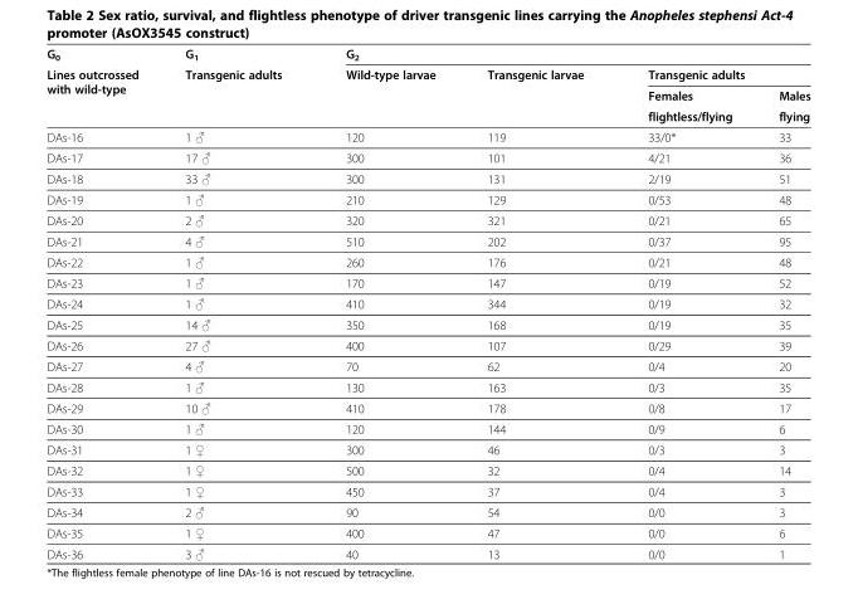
<table><thead><tr><td rowspan="4">G<sub>0</sub> Lines outcrossed with wild-type</td><td rowspan="4">G<sub>1</sub> Transgenic adults</td><td colspan="4">G<sub>2</sub></td></tr><tr><td rowspan="3">Wild-type larvae</td><td rowspan="3">Transgenic larvae</td><td colspan="2">Transgenic adults</td></tr><tr><td rowspan="2">Females flightless/flying</td><td rowspan="2">Males flying</td></tr><tr></tr></thead><tbody><tr><td>DAs-16</td><td>1 ♂</td><td>120</td><td>119</td><td>33/0*</td><td>33</td></tr><tr><td>DAs-17</td><td>17 ♂</td><td>300</td><td>101</td><td>4/21</td><td>36</td></tr><tr><td>DAs-18</td><td>33 ♂</td><td>300</td><td>131</td><td>2/19</td><td>51</td></tr><tr><td>DAs-19</td><td>1 ♂</td><td>210</td><td>129</td><td>0/53</td><td>48</td></tr><tr><td>DAs-20</td><td>2 ♂</td><td>320</td><td>321</td><td>0/21</td><td>65</td></tr><tr><td>DAs-21</td><td>4 ♂</td><td>510</td><td>202</td><td>0/37</td><td>95</td></tr><tr><td>DAs-22</td><td>1 ♂</td><td>260</td><td>176</td><td>0/21</td><td>48</td></tr><tr><td>DAs-23</td><td>1 ♂</td><td>170</td><td>147</td><td>0/19</td><td>52</td></tr><tr><td>DAs-24</td><td>1 ♂</td><td>410</td><td>344</td><td>0/19</td><td>32</td></tr><tr><td>DAs-25</td><td>14 ♂</td><td>350</td><td>168</td><td>0/19</td><td>35</td></tr><tr><td>DAs-26</td><td>27 ♂</td><td>400</td><td>107</td><td>0/29</td><td>39</td></tr><tr><td>DAs-27</td><td>4 ♂</td><td>70</td><td>62</td><td>0/4</td><td>20</td></tr><tr><td>DAs-28</td><td>1 ♂</td><td>130</td><td>163</td><td>0/3</td><td>35</td></tr><tr><td>DAs-29</td><td>10 ♂</td><td>410</td><td>178</td><td>0/8</td><td>17</td></tr><tr><td>DAs-30</td><td>1 ♂</td><td>120</td><td>144</td><td>0/9</td><td>6</td></tr><tr><td>DAs-31</td><td>1 ♀</td><td>300</td><td>46</td><td>0/3</td><td>3</td></tr><tr><td>DAs-32</td><td>1 ♀</td><td>500</td><td>32</td><td>0/4</td><td>14</td></tr><tr><td>DAs-33</td><td>1 ♀</td><td>450</td><td>37</td><td>0/4</td><td>3</td></tr><tr><td>DAs-34</td><td>2 ♂</td><td>90</td><td>54</td><td>0/0</td><td>3</td></tr><tr><td>DAs-35</td><td>1 ♀</td><td>400</td><td>47</td><td>0/0</td><td>6</td></tr><tr><td>DAs-36</td><td>3 ♂</td><td>40</td><td>13</td><td>0/0</td><td>1</td></tr></tbody></table>